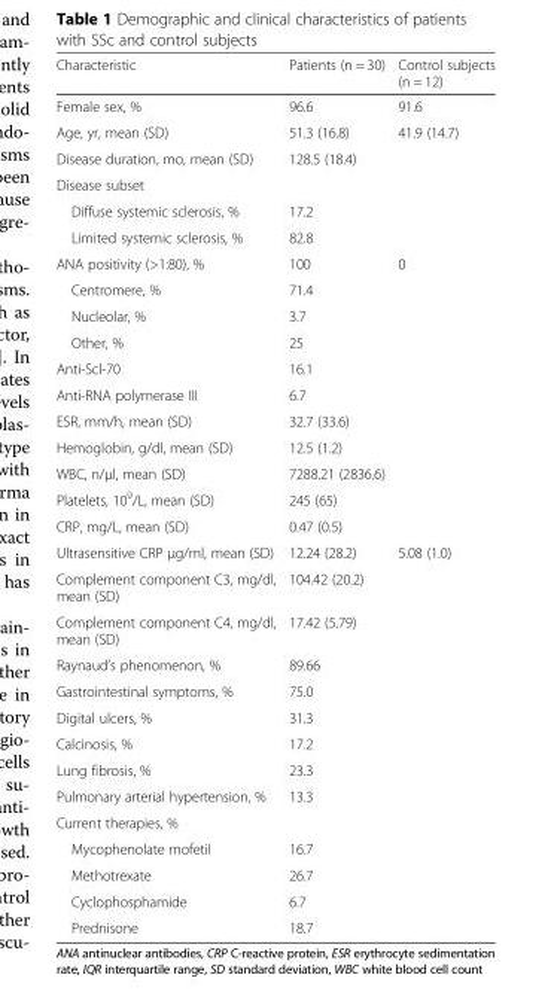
<table><thead><tr><td>Characteristic</td><td>Patients (n = 30)</td><td>Control subjects (n = 12)</td></tr></thead><tbody><tr><td>Female sex, %</td><td>96.6</td><td>91.6</td></tr><tr><td>Age, yr, mean (SD)</td><td>51.3 (16.8)</td><td>41.9 (14.7)</td></tr><tr><td>Disease duration, mo, mean (SD)</td><td>128.5 (18.4)</td><td></td></tr><tr><td colspan="3">Disease subset</td></tr><tr><td>Diffuse systemic sclerosis, %</td><td>17.2</td><td></td></tr><tr><td>Limited systemic sclerosis, %</td><td>82.8</td><td></td></tr><tr><td>ANA positivity (&gt;1:80), %</td><td>100</td><td>0</td></tr><tr><td>Centromere, %</td><td>71.4</td><td></td></tr><tr><td>Nucleolar, %</td><td>3.7</td><td></td></tr><tr><td>Other, %</td><td>25</td><td></td></tr><tr><td>Anti-Scl-70</td><td>16.1</td><td></td></tr><tr><td>Anti-RNA polymerase III</td><td>6.7</td><td></td></tr><tr><td>ESR, mm/h, mean (SD)</td><td>32.7 (33.6)</td><td></td></tr><tr><td>Hemoglobin, g/dl, mean (SD)</td><td>12.5 (1.2)</td><td></td></tr><tr><td>WBC, n/μl, mean (SD)</td><td>7288.21 (2836.6)</td><td></td></tr><tr><td>Platelets, 10<sup>9</sup>/L, mean (SD)</td><td>245 (65)</td><td></td></tr><tr><td>CRP, mg/L, mean (SD)</td><td>0.47 (0.5)</td><td></td></tr><tr><td>Ultrasensitive CRP μg/ml, mean (SD)</td><td>12.24 (28.2)</td><td>5.08 (1.0)</td></tr><tr><td>Complement component C3, mg/dl, mean (SD)</td><td>104.42 (20.2)</td><td></td></tr><tr><td>Complement component C4, mg/dl, mean (SD)</td><td>17.42 (5.79)</td><td></td></tr><tr><td>Raynaud’s phenomenon, %</td><td>89.66</td><td></td></tr><tr><td>Gastrointestinal symptoms, %</td><td>75.0</td><td></td></tr><tr><td>Digital ulcers, %</td><td>31.3</td><td></td></tr><tr><td>Calcinosis, %</td><td>17.2</td><td></td></tr><tr><td>Lung fibrosis, %</td><td>23.3</td><td></td></tr><tr><td>Pulmonary arterial hypertension, %</td><td>13.3</td><td></td></tr><tr><td colspan="3">Current therapies, %</td></tr><tr><td>Mycophenolate mofetil</td><td>16.7</td><td></td></tr><tr><td>Methotrexate</td><td>26.7</td><td></td></tr><tr><td>Cyclophosphamide</td><td>6.7</td><td></td></tr><tr><td>Prednisone</td><td>18.7</td><td></td></tr></tbody></table>